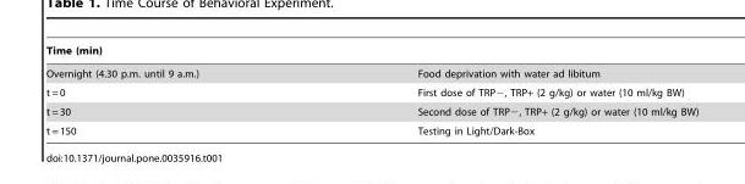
<table><thead><tr><td>Time (min)</td><td></td></tr></thead><tbody><tr><td>Overnight (4.30 p.m. until 9 a.m.)</td><td>Food deprivation with water ad libitum</td></tr><tr><td>t = 0</td><td>First dose of TRP−, TRP+ (2 g/kg) or water (10 ml/kg BW)</td></tr><tr><td>t = 30</td><td>Second dose of TRP−, TRP+ (2 g/kg) or water (10 ml/kg BW)</td></tr><tr><td>t = 150</td><td>Testing in Light/Dark-Box</td></tr></tbody></table>